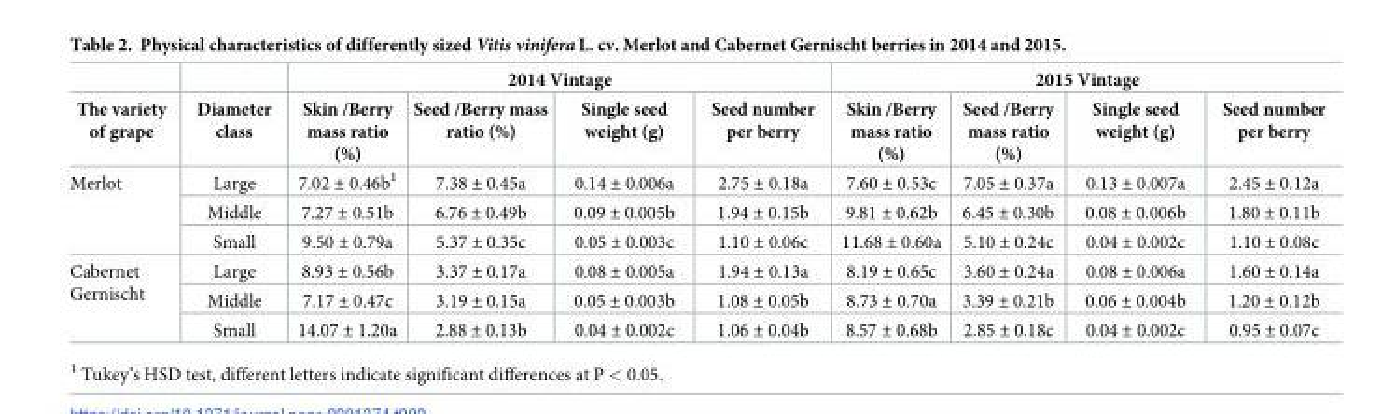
<table><thead><tr><td rowspan="2">The variety of grape</td><td rowspan="2">Diameter class</td><td colspan="4">2014 Vintage</td><td colspan="4">2015 Vintage</td></tr><tr><td>Skin /Berry mass ratio (%)</td><td>Seed /Berry mass ratio (%)</td><td>Single seed weight (g)</td><td>Seed number per berry</td><td>Skin /Berry mass ratio (%)</td><td>Seed /Berry mass ratio (%)</td><td>Single seed weight (g)</td><td>Seed number per berry</td></tr></thead><tbody><tr><td rowspan="3">Merlot</td><td>Large</td><td>7.02 ± 0.46b<sup>1</sup></td><td>7.38 ± 0.45a</td><td>0.14 ± 0.006a</td><td>2.75 ± 0.18a</td><td>7.60 ± 0.53c</td><td>7.05 ± 0.37a</td><td>0.13 ± 0.007a</td><td>2.45 ± 0.12a</td></tr><tr><td>Middle</td><td>7.27 ± 0.51b</td><td>6.76 ± 0.49b</td><td>0.09 ± 0.005b</td><td>1.94 ± 0.15b</td><td>9.81 ± 0.62b</td><td>6.45 ± 0.30b</td><td>0.08 ± 0.006b</td><td>1.80 ± 0.11b</td></tr><tr><td>Small</td><td>9.50 ± 0.79a</td><td>5.37 ± 0.35c</td><td>0.05 ± 0.003c</td><td>1.10 ± 0.06c</td><td>11.68 ± 0.60a</td><td>5.10 ± 0.24c</td><td>0.04 ± 0.002c</td><td>1.10 ± 0.08c</td></tr><tr><td rowspan="3">Cabernet Gernischt</td><td>Large</td><td>8.93 ± 0.56b</td><td>3.37 ± 0.17a</td><td>0.08 ± 0.005a</td><td>1.94 ± 0.13a</td><td>8.19 ± 0.65c</td><td>3.60 ± 0.24a</td><td>0.08 ± 0.006a</td><td>1.60 ± 0.14a</td></tr><tr><td>Middle</td><td>7.17 ± 0.47c</td><td>3.19 ± 0.15a</td><td>0.05 ± 0.003b</td><td>1.08 ± 0.05b</td><td>8.73 ± 0.70a</td><td>3.39 ± 0.21b</td><td>0.06 ± 0.004b</td><td>1.20 ± 0.12b</td></tr><tr><td>Small</td><td>14.07 ± 1.20a</td><td>2.88 ± 0.13b</td><td>0.04 ± 0.002c</td><td>1.06 ± 0.04b</td><td>8.57 ± 0.68b</td><td>2.85 ± 0.18c</td><td>0.04 ± 0.002c</td><td>0.95 ± 0.07c</td></tr></tbody></table>